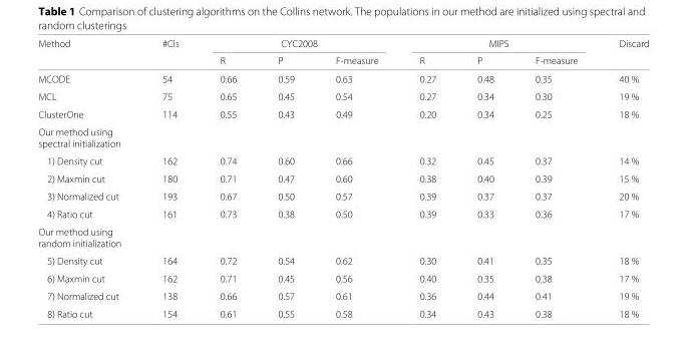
<table><thead><tr><td rowspan="2">Method</td><td rowspan="2">#Cls</td><td colspan="3">CYC2008</td><td colspan="3">MIPS</td><td rowspan="2">Discard</td></tr><tr><td>R</td><td>P</td><td>F-measure</td><td>R</td><td>P</td><td>F-measure</td></tr></thead><tbody><tr><td>MCODE</td><td>54</td><td>0.66</td><td>0.59</td><td>0.63</td><td>0.27</td><td>0.48</td><td>0.35</td><td>40 %</td></tr><tr><td>MCL</td><td>75</td><td>0.65</td><td>0.45</td><td>0.54</td><td>0.27</td><td>0.34</td><td>0.30</td><td>19 %</td></tr><tr><td>ClusterOne</td><td>114</td><td>0.55</td><td>0.43</td><td>0.49</td><td>0.20</td><td>0.34</td><td>0.25</td><td>18 %</td></tr><tr><td colspan="9">Our method using</td></tr><tr><td colspan="9">spectral initialization</td></tr><tr><td>1) Density cut</td><td>162</td><td>0.74</td><td>0.60</td><td>0.66</td><td>0.32</td><td>0.45</td><td>0.37</td><td>14 %</td></tr><tr><td>2) Maxmin cut</td><td>180</td><td>0.71</td><td>0.47</td><td>0.60</td><td>0.38</td><td>0.40</td><td>0.39</td><td>15 %</td></tr><tr><td>3) Normalized cut</td><td>193</td><td>0.67</td><td>0.50</td><td>0.57</td><td>0.39</td><td>0.37</td><td>0.37</td><td>20 %</td></tr><tr><td>4) Ratio cut</td><td>161</td><td>0.73</td><td>0.38</td><td>0.50</td><td>0.39</td><td>0.33</td><td>0.36</td><td>17 %</td></tr><tr><td colspan="9">Our method using</td></tr><tr><td colspan="9">random initialization</td></tr><tr><td>5) Density cut</td><td>164</td><td>0.72</td><td>0.54</td><td>0.62</td><td>0.30</td><td>0.41</td><td>0.35</td><td>18 %</td></tr><tr><td>6) Maxmin cut</td><td>162</td><td>0.71</td><td>0.45</td><td>0.56</td><td>0.40</td><td>0.35</td><td>0.38</td><td>17 %</td></tr><tr><td>7) Normalized cut</td><td>138</td><td>0.66</td><td>0.57</td><td>0.61</td><td>0.36</td><td>0.44</td><td>0.41</td><td>19 %</td></tr><tr><td>8) Ratio cut</td><td>154</td><td>0.61</td><td>0.55</td><td>0.58</td><td>0.34</td><td>0.43</td><td>0.38</td><td>18 %</td></tr></tbody></table>